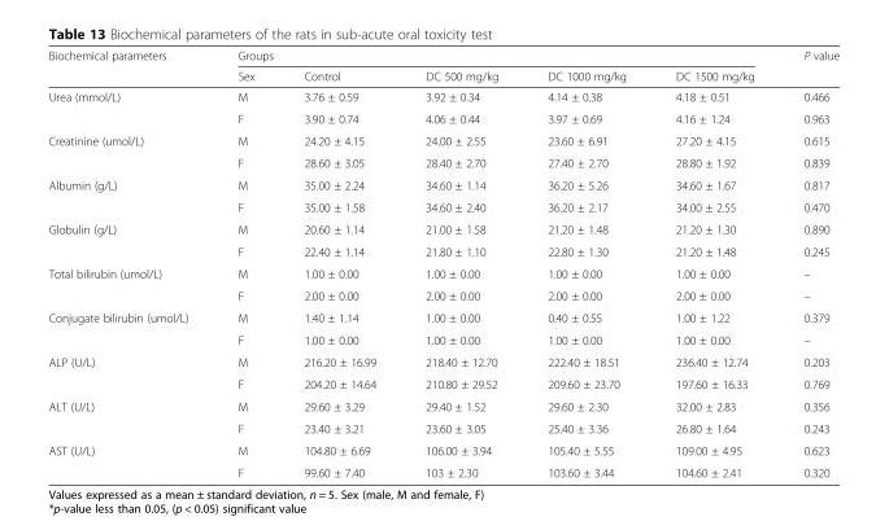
<table><thead><tr><td rowspan="2">Biochemical parameters</td><td colspan="5">Groups</td><td rowspan="2">P value</td></tr><tr><td>Sex</td><td>Control</td><td>DC 500 mg/kg</td><td>DC 1000 mg/kg</td><td>DC 1500 mg/kg</td></tr></thead><tbody><tr><td rowspan="2">Urea (mmol/L)</td><td>M</td><td>3.76 ± 0.59</td><td>3.92 ± 0.34</td><td>4.14 ± 0.38</td><td>4.18 ± 0.51</td><td>0.466</td></tr><tr><td>F</td><td>3.90 ± 0.74</td><td>4.06 ± 0.44</td><td>3.97 ± 0.69</td><td>4.16 ± 1.24</td><td>0.963</td></tr><tr><td rowspan="2">Creatinine (umol/L)</td><td>M</td><td>24.20 ± 4.15</td><td>24.00 ± 2.55</td><td>23.60 ± 6.91</td><td>27.20 ± 4.15</td><td>0.615</td></tr><tr><td>F</td><td>28.60 ± 3.05</td><td>28.40 ± 2.70</td><td>27.40 ± 2.70</td><td>28.80 ± 1.92</td><td>0.839</td></tr><tr><td rowspan="2">Albumin (g/L)</td><td>M</td><td>35.00 ± 2.24</td><td>34.60 ± 1.14</td><td>36.20 ± 5.26</td><td>34.60 ± 1.67</td><td>0.817</td></tr><tr><td>F</td><td>35.00 ± 1.58</td><td>34.60 ± 2.40</td><td>36.20 ± 2.17</td><td>34.00 ± 2.55</td><td>0.470</td></tr><tr><td rowspan="2">Globulin (g/L)</td><td>M</td><td>20.60 ± 1.14</td><td>21.00 ± 1.58</td><td>21.20 ± 1.48</td><td>21.20 ± 1.30</td><td>0.890</td></tr><tr><td>F</td><td>22.40 ± 1.14</td><td>21.80 ± 1.10</td><td>22.80 ± 1.30</td><td>21.20 ± 1.48</td><td>0.245</td></tr><tr><td rowspan="2">Total bilirubin (umol/L)</td><td>M</td><td>1.00 ± 0.00</td><td>1.00 ± 0.00</td><td>1.00 ± 0.00</td><td>1.00 ± 0.00</td><td>–</td></tr><tr><td>F</td><td>2.00 ± 0.00</td><td>2.00 ± 0.00</td><td>2.00 ± 0.00</td><td>2.00 ± 0.00</td><td>–</td></tr><tr><td rowspan="2">Conjugate bilirubin (umol/L)</td><td>M</td><td>1.40 ± 1.14</td><td>1.00 ± 0.00</td><td>0.40 ± 0.55</td><td>1.00 ± 1.22</td><td>0.379</td></tr><tr><td>F</td><td>1.00 ± 0.00</td><td>1.00 ± 0.00</td><td>1.00 ± 0.00</td><td>1.00 ± 0.00</td><td>–</td></tr><tr><td rowspan="2">ALP (U/L)</td><td>M</td><td>216.20 ± 16.99</td><td>218.40 ± 12.70</td><td>222.40 ± 18.51</td><td>236.40 ± 12.74</td><td>0.203</td></tr><tr><td>F</td><td>204.20 ± 14.64</td><td>210.80 ± 29.52</td><td>209.60 ± 23.70</td><td>197.60 ± 16.33</td><td>0.769</td></tr><tr><td rowspan="2">ALT (U/L)</td><td>M</td><td>29.60 ± 3.29</td><td>29.40 ± 1.52</td><td>29.60 ± 2.30</td><td>32.00 ± 2.83</td><td>0.356</td></tr><tr><td>F</td><td>23.40 ± 3.21</td><td>23.60 ± 3.05</td><td>25.40 ± 3.36</td><td>26.80 ± 1.64</td><td>0.243</td></tr><tr><td rowspan="2">AST (U/L)</td><td>M</td><td>104.80 ± 6.69</td><td>106.00 ± 3.94</td><td>105.40 ± 5.55</td><td>109.00 ± 4.95</td><td>0.623</td></tr><tr><td>F</td><td>99.60 ± 7.40</td><td>103 ± 2.30</td><td>103.60 ± 3.44</td><td>104.60 ± 2.41</td><td>0.320</td></tr></tbody></table>